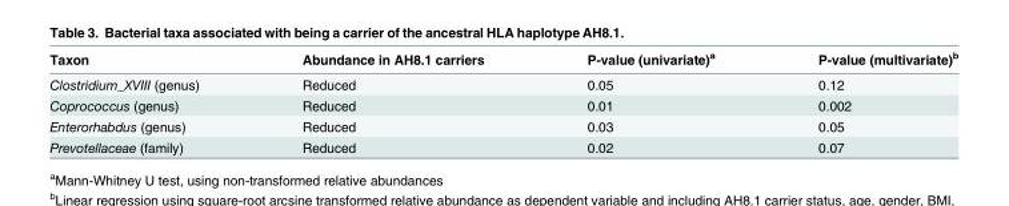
<table><thead><tr><td>Taxon</td><td>Abundance in AH8.1 carriers</td><td>P-value (univariate)<sup>a</sup></td><td>P-value (multivariate)<sup>b</sup></td></tr></thead><tbody><tr><td>Clostridium_XVIII (genus)</td><td>Reduced</td><td>0.05</td><td>0.12</td></tr><tr><td>Coprococcus (genus)</td><td>Reduced</td><td>0.01</td><td>0.002</td></tr><tr><td>Enterorhabdus (genus)</td><td>Reduced</td><td>0.03</td><td>0.05</td></tr><tr><td>Prevotellaceae (family)</td><td>Reduced</td><td>0.02</td><td>0.07</td></tr></tbody></table>